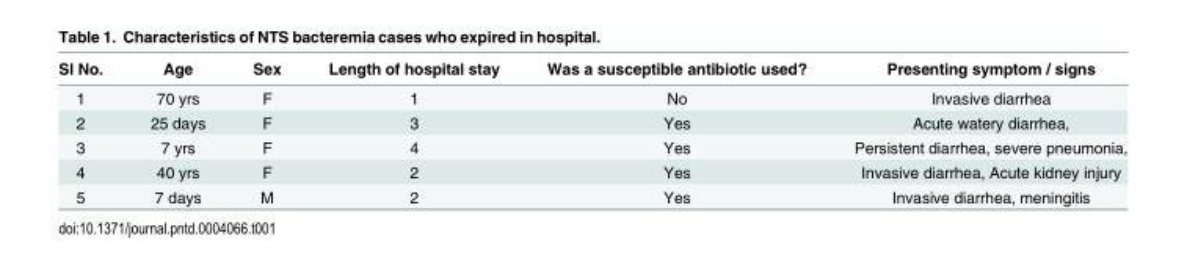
<table><thead><tr><td>Sl No.</td><td>Age</td><td>Sex</td><td>Length of hospital stay</td><td>Was a susceptible antibiotic used?</td><td>Presenting symptom / signs</td></tr></thead><tbody><tr><td>1</td><td>70 yrs</td><td>F</td><td>1</td><td>No</td><td>Invasive diarrhea</td></tr><tr><td>2</td><td>25 days</td><td>F</td><td>3</td><td>Yes</td><td>Acute watery diarrhea,</td></tr><tr><td>3</td><td>7 yrs</td><td>F</td><td>4</td><td>Yes</td><td>Persistent diarrhea, severe pneumonia,</td></tr><tr><td>4</td><td>40 yrs</td><td>F</td><td>2</td><td>Yes</td><td>Invasive diarrhea, Acute kidney injury</td></tr><tr><td>5</td><td>7 days</td><td>M</td><td>2</td><td>Yes</td><td>Invasive diarrhea, meningitis</td></tr></tbody></table>